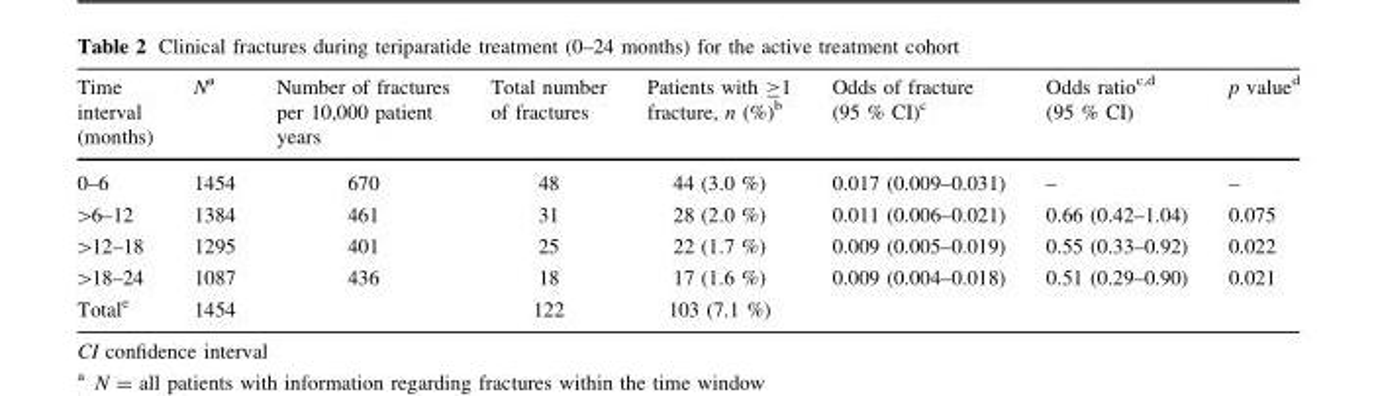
<table><thead><tr><td>Time interval (months)</td><td>N<sup>a</sup></td><td>Number of fractures per 10,000 patient years</td><td>Total number of fractures</td><td>Patients with ≥1 fracture, n (%)<sup>b</sup></td><td>Odds of fracture (95 % CI)<sup>c</sup></td><td>Odds ratio<sup>c,d</sup> (95 % CI)</td><td>p value<sup>d</sup></td></tr></thead><tbody><tr><td>0–6</td><td>1454</td><td>670</td><td>48</td><td>44 (3.0 %)</td><td>0.017 (0.009–0.031)</td><td>–</td><td>–</td></tr><tr><td>&gt;6–12</td><td>1384</td><td>461</td><td>31</td><td>28 (2.0 %)</td><td>0.011 (0.006–0.021)</td><td>0.66 (0.42–1.04)</td><td>0.075</td></tr><tr><td>&gt;12–18</td><td>1295</td><td>401</td><td>25</td><td>22 (1.7 %)</td><td>0.009 (0.005–0.019)</td><td>0.55 (0.33–0.92)</td><td>0.022</td></tr><tr><td>&gt;18–24</td><td>1087</td><td>436</td><td>18</td><td>17 (1.6 %)</td><td>0.009 (0.004–0.018)</td><td>0.51 (0.29–0.90)</td><td>0.021</td></tr><tr><td>Total<sup>e</sup></td><td>1454</td><td></td><td>122</td><td>103 (7.1 %)</td><td></td><td></td><td></td></tr></tbody></table>